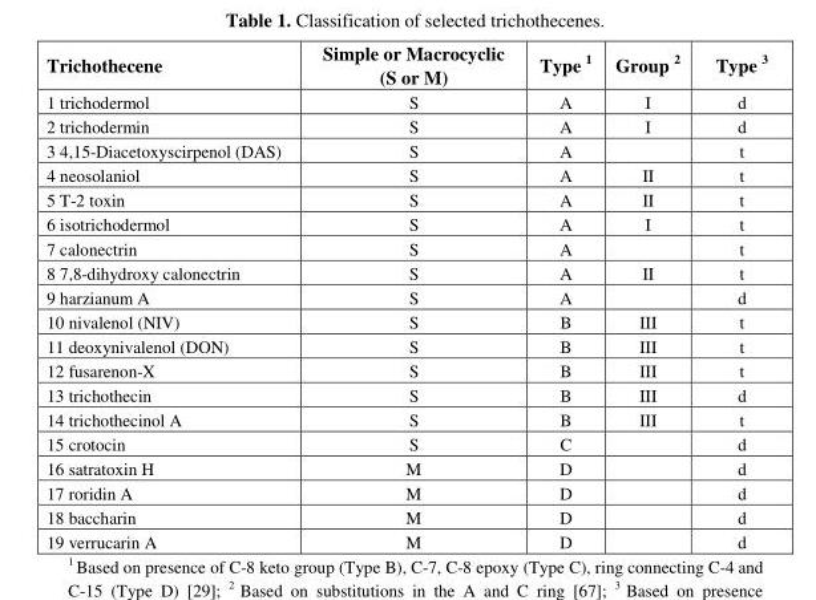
<table><thead><tr><td>Trichothecene</td><td>Simple or Macrocyclic (S or M)</td><td>Type <sup>1</sup></td><td>Group <sup>2</sup></td><td>Type <sup>3</sup></td></tr></thead><tbody><tr><td>1 trichodermol</td><td>S</td><td>A</td><td>I</td><td>d</td></tr><tr><td>2 trichodermin</td><td>S</td><td>A</td><td>I</td><td>d</td></tr><tr><td>3 4,15-Diacetoxyscirpenol (DAS)</td><td>S</td><td>A</td><td></td><td>t</td></tr><tr><td>4 neosolaniol</td><td>S</td><td>A</td><td>II</td><td>t</td></tr><tr><td>5 T-2 toxin</td><td>S</td><td>A</td><td>II</td><td>t</td></tr><tr><td>6 isotrichodermol</td><td>S</td><td>A</td><td>I</td><td>t</td></tr><tr><td>7 calonectrin</td><td>S</td><td>A</td><td></td><td>t</td></tr><tr><td>8 7,8-dihydroxy calonectrin</td><td>S</td><td>A</td><td>II</td><td>t</td></tr><tr><td>9 harzianum A</td><td>S</td><td>A</td><td></td><td>d</td></tr><tr><td>10 nivalenol (NIV)</td><td>S</td><td>B</td><td>III</td><td>t</td></tr><tr><td>11 deoxynivalenol (DON)</td><td>S</td><td>B</td><td>III</td><td>t</td></tr><tr><td>12 fusarenon-X</td><td>S</td><td>B</td><td>III</td><td>t</td></tr><tr><td>13 trichothecin</td><td>S</td><td>B</td><td>III</td><td>d</td></tr><tr><td>14 trichothecinol A</td><td>S</td><td>B</td><td>III</td><td>t</td></tr><tr><td>15 crotocin</td><td>S</td><td>C</td><td></td><td>d</td></tr><tr><td>16 satratoxin H</td><td>M</td><td>D</td><td></td><td>d</td></tr><tr><td>17 roridin A</td><td>M</td><td>D</td><td></td><td>d</td></tr><tr><td>18 baccharin</td><td>M</td><td>D</td><td></td><td>d</td></tr><tr><td>19 verrucarin A</td><td>M</td><td>D</td><td></td><td>d</td></tr></tbody></table>